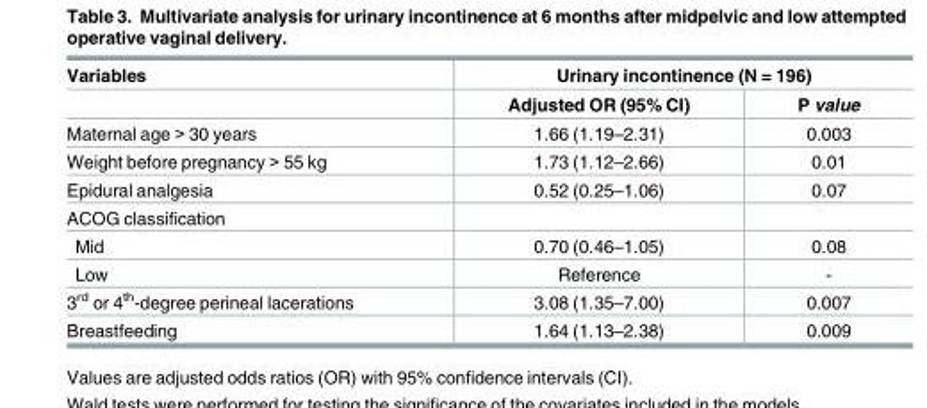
<table><thead><tr><td rowspan="2">Variables</td><td colspan="2">Urinary incontinence (N = 196)</td></tr><tr><td>Adjusted OR (95% CI)</td><td>P value</td></tr></thead><tbody><tr><td>Maternal age &gt; 30 years</td><td>1.66 (1.19–2.31)</td><td>0.003</td></tr><tr><td>Weight before pregnancy &gt; 55 kg</td><td>1.73 (1.12–2.66)</td><td>0.01</td></tr><tr><td>Epidural analgesia</td><td>0.52 (0.25–1.06)</td><td>0.07</td></tr><tr><td colspan="3">ACOG classification</td></tr><tr><td>Mid</td><td>0.70 (0.46–1.05)</td><td>0.08</td></tr><tr><td>Low</td><td>Reference</td><td>-</td></tr><tr><td>3<sup>rd</sup> or 4<sup>th</sup>-degree perineal lacerations</td><td>3.08 (1.35–7.00)</td><td>0.007</td></tr><tr><td>Breastfeeding</td><td>1.64 (1.13–2.38)</td><td>0.009</td></tr></tbody></table>